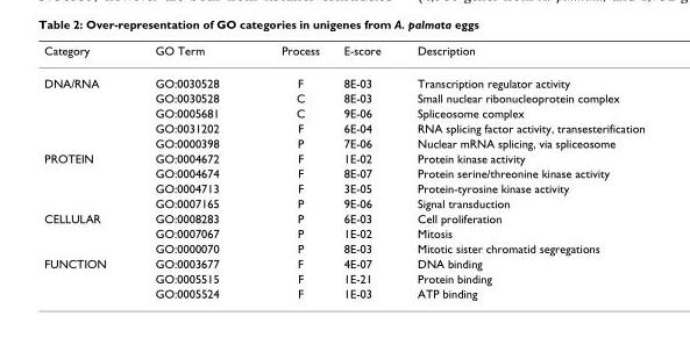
<table><thead><tr><td>Category</td><td>GO Term</td><td>Process</td><td>E-score</td><td>Description</td></tr></thead><tbody><tr><td rowspan="5">DNA/RNA</td><td>GO:0030528</td><td>F</td><td>8E-03</td><td>Transcription regulator activity</td></tr><tr><td>GO:0030528</td><td>C</td><td>8E-03</td><td>Small nuclear ribonucleoprotein complex</td></tr><tr><td>GO:0005681</td><td>C</td><td>9E-06</td><td>Spliceosome complex</td></tr><tr><td>GO:0031202</td><td>F</td><td>6E-04</td><td>RNA splicing factor activity, transesterification</td></tr><tr><td>GO:0000398</td><td>P</td><td>7E-06</td><td>Nuclear mRNA splicing, via spliceosome</td></tr><tr><td rowspan="4">PROTEIN</td><td>GO:0004672</td><td>F</td><td>1E-02</td><td>Protein kinase activity</td></tr><tr><td>GO:0004674</td><td>F</td><td>8E-07</td><td>Protein serine/threonine kinase activity</td></tr><tr><td>GO:0004713</td><td>F</td><td>3E-05</td><td>Protein-tyrosine kinase activity</td></tr><tr><td>GO:0007165</td><td>P</td><td>9E-06</td><td>Signal transduction</td></tr><tr><td rowspan="3">CELLULAR</td><td>GO:0008283</td><td>P</td><td>6E-03</td><td>Cell proliferation</td></tr><tr><td>GO:0007067</td><td>P</td><td>1E-02</td><td>Mitosis</td></tr><tr><td>GO:0000070</td><td>P</td><td>8E-03</td><td>Mitotic sister chromatid segregations</td></tr><tr><td rowspan="3">FUNCTION</td><td>GO:0003677</td><td>F</td><td>4E-07</td><td>DNA binding</td></tr><tr><td>GO:0005515</td><td>F</td><td>1E-21</td><td>Protein binding</td></tr><tr><td>GO:0005524</td><td>F</td><td>1E-03</td><td>ATP binding</td></tr></tbody></table>